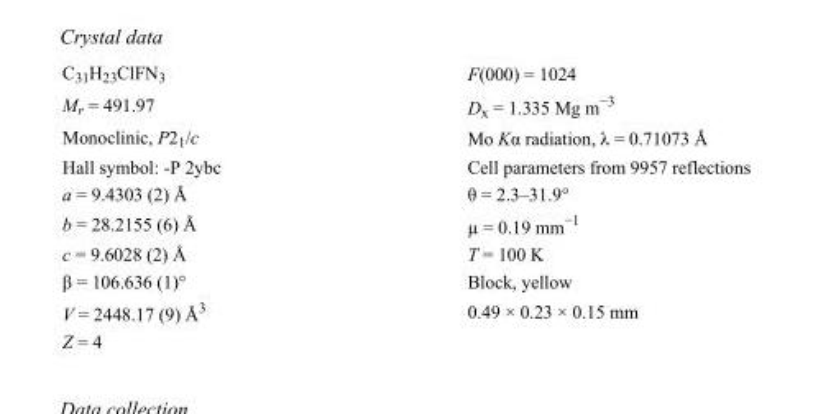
<table><tbody><tr><td>C<sub>31</sub>H<sub>23</sub>ClFN<sub>3</sub></td><td>F(000) = 1024</td></tr><tr><td>M<sub>r</sub> = 491.97</td><td>D<sub>x</sub> = 1.335 Mg m<sup>−3</sup></td></tr><tr><td>Monoclinic, P2<sub>1</sub>/c</td><td>Mo Kα radiation, λ = 0.71073 Å</td></tr><tr><td>Hall symbol: -P 2ybc</td><td>Cell parameters from 9957 reflections</td></tr><tr><td>a = 9.4303 (2) Å</td><td>θ = 2.3–31.9°</td></tr><tr><td>b = 28.2155 (6) Å</td><td>µ = 0.19 mm<sup>−1</sup></td></tr><tr><td>c = 9.6028 (2) Å</td><td>T = 100 K</td></tr><tr><td>β = 106.636 (1)°</td><td>Block, yellow</td></tr><tr><td>V = 2448.17 (9) Å<sup>3</sup></td><td>0.49 × 0.23 × 0.15 mm</td></tr><tr><td>Z = 4</td><td></td></tr></tbody></table>